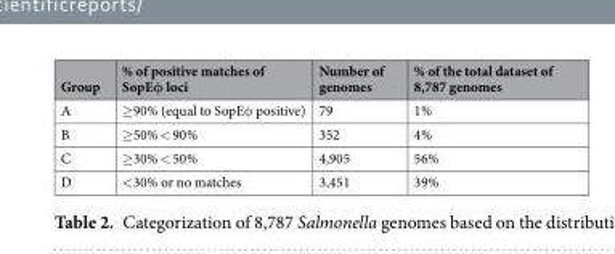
<table><thead><tr><td>Group</td><td>% of positive matches of SopEφ loci</td><td>Number of genomes</td><td>% of the total dataset of 8,787 genomes</td></tr></thead><tbody><tr><td>A</td><td>≥90% (equal to SopEφ positive)</td><td>79</td><td>1%</td></tr><tr><td>B</td><td>≥50% &lt; 90%</td><td>352</td><td>4%</td></tr><tr><td>C</td><td>≥30% &lt; 50%</td><td>4,905</td><td>56%</td></tr><tr><td>D</td><td>&lt;30% or no matches</td><td>3,451</td><td>39%</td></tr></tbody></table>